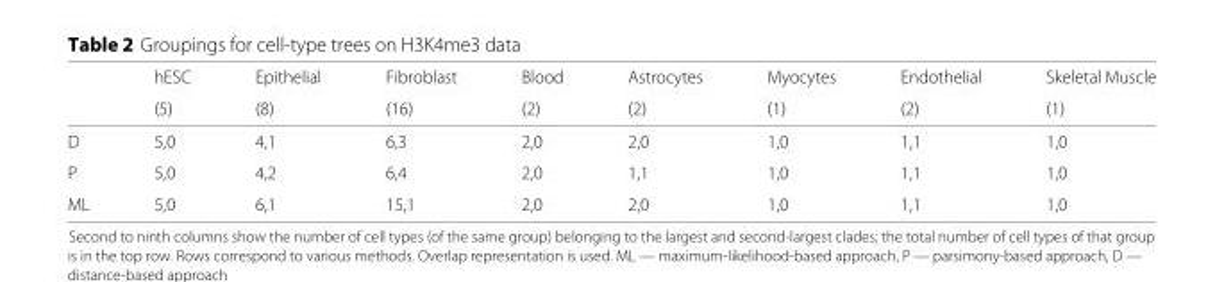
<table><thead><tr><td rowspan="2"></td><td rowspan="2">hESC (5)</td><td rowspan="2">Epithelial (8)</td><td rowspan="2">Fibroblast (16)</td><td rowspan="2">Blood (2)</td><td rowspan="2">Astrocytes (2)</td><td rowspan="2">Myocytes (1)</td><td rowspan="2">Endothelial (2)</td><td rowspan="2">Skeletal Muscle (1)</td></tr><tr></tr></thead><tbody><tr><td>D</td><td>5,0</td><td>4,1</td><td>6,3</td><td>2,0</td><td>2,0</td><td>1,0</td><td>1,1</td><td>1,0</td></tr><tr><td>P</td><td>5,0</td><td>4,2</td><td>6,4</td><td>2,0</td><td>1,1</td><td>1,0</td><td>1,1</td><td>1,0</td></tr><tr><td>ML</td><td>5,0</td><td>6,1</td><td>15,1</td><td>2,0</td><td>2,0</td><td>1,0</td><td>1,1</td><td>1,0</td></tr></tbody></table>